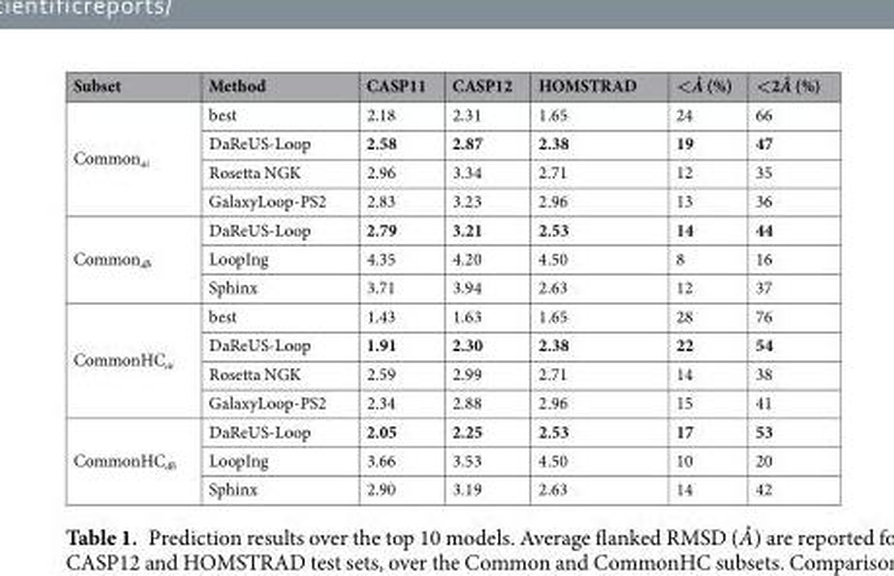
<table><thead><tr><td>Subset</td><td>Method</td><td>CASP11</td><td>CASP12</td><td>HOMSTRAD</td><td>&lt;Å (%)</td><td>&lt;2Å (%)</td></tr></thead><tbody><tr><td rowspan="4">Common<sub>ai</sub></td><td>best</td><td>2.18</td><td>2.31</td><td>1.65</td><td>24</td><td>66</td></tr><tr><td>DaReUS-Loop</td><td>2.58</td><td>2.87</td><td>2.38</td><td>19</td><td>47</td></tr><tr><td>Rosetta NGK</td><td>2.96</td><td>3.34</td><td>2.71</td><td>12</td><td>35</td></tr><tr><td>GalaxyLoop-PS2</td><td>2.83</td><td>3.23</td><td>2.96</td><td>13</td><td>36</td></tr><tr><td rowspan="3">Common<sub>db</sub></td><td>DaReUS-Loop</td><td>2.79</td><td>3.21</td><td>2.53</td><td>14</td><td>44</td></tr><tr><td>LoopIng</td><td>4.35</td><td>4.20</td><td>4.50</td><td>8</td><td>16</td></tr><tr><td>Sphinx</td><td>3.71</td><td>3.94</td><td>2.63</td><td>12</td><td>37</td></tr><tr><td rowspan="4">CommonHC<sub>ai</sub></td><td>best</td><td>1.43</td><td>1.63</td><td>1.65</td><td>28</td><td>76</td></tr><tr><td>DaReUS-Loop</td><td>1.91</td><td>2.30</td><td>2.38</td><td>22</td><td>54</td></tr><tr><td>Rosetta NGK</td><td>2.59</td><td>2.99</td><td>2.71</td><td>14</td><td>38</td></tr><tr><td>GalaxyLoop-PS2</td><td>2.34</td><td>2.88</td><td>2.96</td><td>15</td><td>41</td></tr><tr><td rowspan="3">CommonHC<sub>db</sub></td><td>DaReUS-Loop</td><td>2.05</td><td>2.25</td><td>2.53</td><td>17</td><td>53</td></tr><tr><td>LoopIng</td><td>3.66</td><td>3.53</td><td>4.50</td><td>10</td><td>20</td></tr><tr><td>Sphinx</td><td>2.90</td><td>3.19</td><td>2.63</td><td>14</td><td>42</td></tr></tbody></table>